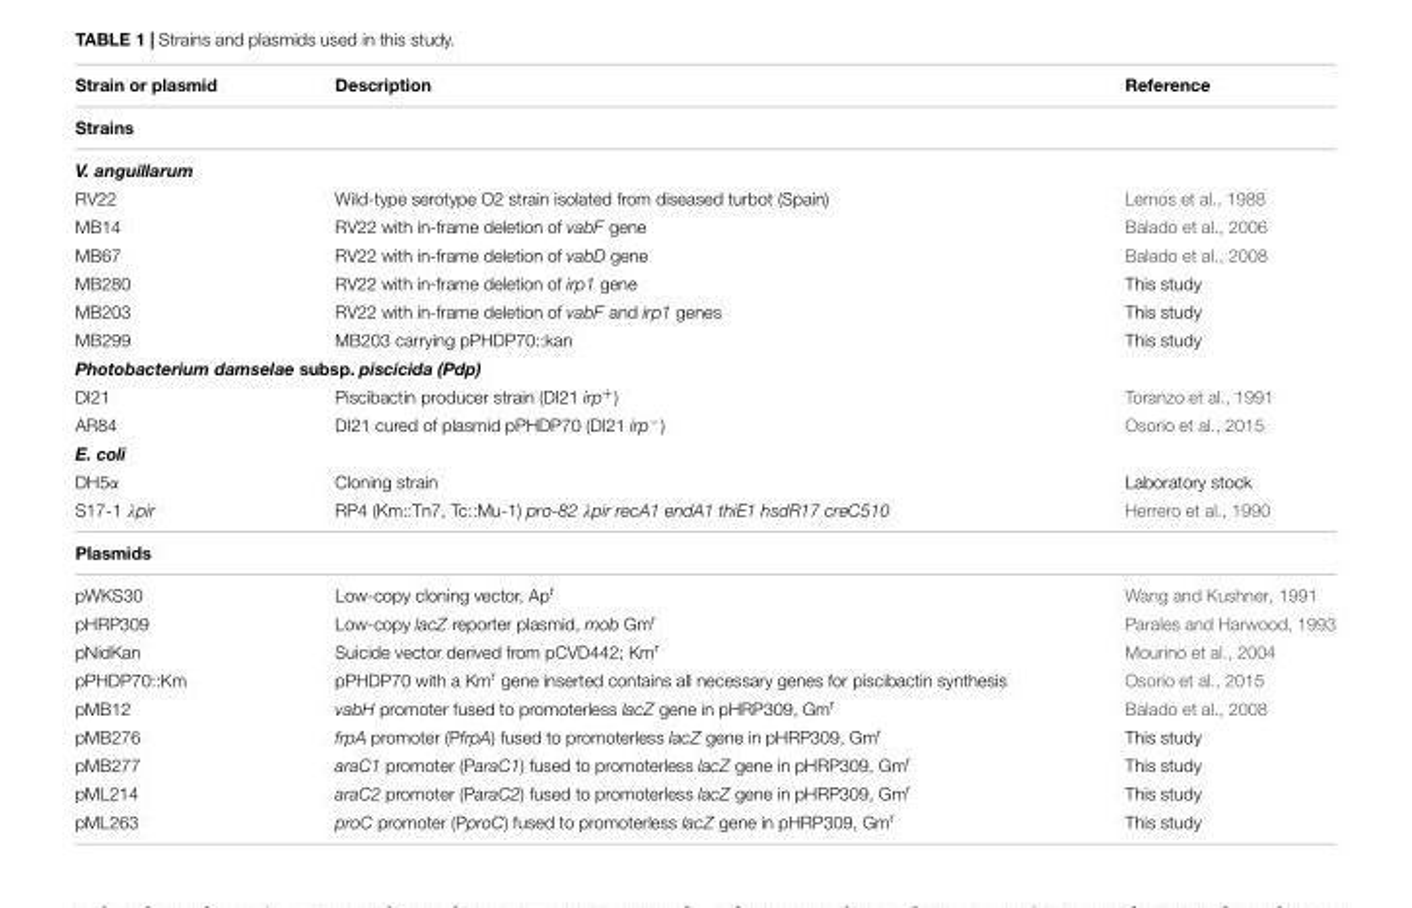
<table><thead><tr><td>Strain or plasmid</td><td>Description</td><td>Reference</td></tr></thead><tbody><tr><td colspan="3">Strains</td></tr><tr><td colspan="3">V. anguillarum</td></tr><tr><td>RV22</td><td>Wild-type serotype O2 strain isolated from diseased turbot (Spain)</td><td>Lemos et al., 1988</td></tr><tr><td>MB14</td><td>RV22 with in-frame deletion of vabF gene</td><td>Balado et al., 2006</td></tr><tr><td>MB67</td><td>RV22 with in-frame deletion of vabD gene</td><td>Balado et al., 2008</td></tr><tr><td>MB280</td><td>RV22 with in-frame deletion of irp1 gene</td><td>This study</td></tr><tr><td>MB203</td><td>RV22 with in-frame deletion of vabF and irp1 genes</td><td>This study</td></tr><tr><td>MB299</td><td>MB203 carrying pPHDP70::kan</td><td>This study</td></tr><tr><td colspan="3">Photobacterium damselae subsp. piscicida (Pdp)</td></tr><tr><td>DI21</td><td>Piscibactin producer strain (DI21 irp<sup>+</sup>)</td><td>Toranzo et al., 1991</td></tr><tr><td>AR84</td><td>DI21 cured of plasmid pPHDP70 (DI21 irp<sup>−</sup>)</td><td>Osorio et al., 2015</td></tr><tr><td colspan="3">E. coli</td></tr><tr><td>DH5α</td><td>Cloning strain</td><td>Laboratory stock</td></tr><tr><td>S17-1 λpir</td><td>RP4 (Km::Tn7, Tc::Mu-1) pro-82 λpir recA1 endA1 thiE1 hsdR17 creC510</td><td>Herrero et al., 1990</td></tr><tr><td colspan="3">Plasmids</td></tr><tr><td>pWKS30</td><td>Low-copy cloning vector, Ap<sup>r</sup></td><td>Wang and Kushner, 1991</td></tr><tr><td>pHRP309</td><td>Low-copy lacZ reporter plasmid, mob Gm<sup>r</sup></td><td>Parales and Harwood, 1993</td></tr><tr><td>pNidKan</td><td>Suicide vector derived from pCVD442; Km<sup>r</sup></td><td>Mourino et al., 2004</td></tr><tr><td>pPHDP70::Km</td><td>pPHDP70 with a Km<sup>r</sup> gene inserted contains all necessary genes for piscibactin synthesis</td><td>Osorio et al., 2015</td></tr><tr><td>pMB12</td><td>vabH promoter fused to promoterless lacZ gene in pHRP309, Gm<sup>r</sup></td><td>Balado et al., 2008</td></tr><tr><td>pMB276</td><td>frpA promoter (PfrpA) fused to promoterless lacZ gene in pHRP309, Gm<sup>r</sup></td><td>This study</td></tr><tr><td>pMB277</td><td>araC1 promoter (ParaC1) fused to promoterless lacZ gene in pHRP309, Gm<sup>r</sup></td><td>This study</td></tr><tr><td>pML214</td><td>araC2 promoter (ParaC2) fused to promoterless lacZ gene in pHRP309, Gm<sup>r</sup></td><td>This study</td></tr><tr><td>pML263</td><td>proC promoter (PproC) fused to promoterless lacZ gene in pHRP309, Gm<sup>r</sup></td><td>This study</td></tr></tbody></table>